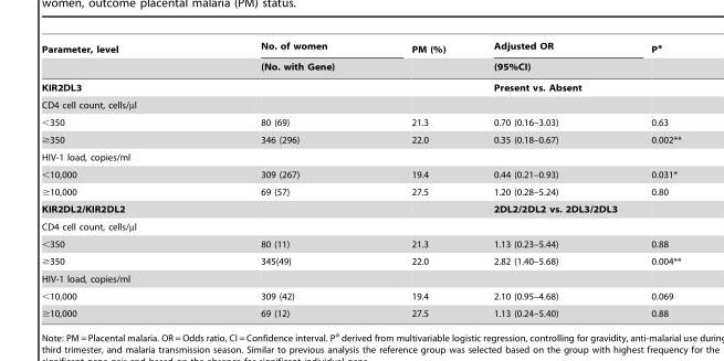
<table><thead><tr><td rowspan="2">Parameter, level</td><td rowspan="2">No. of women (No. with Gene)</td><td rowspan="2">PM (%)</td><td rowspan="2">Adjusted OR (95%CI)</td><td rowspan="2">P<sup>a</sup></td></tr><tr></tr></thead><tbody><tr><td>KIR2DL3</td><td></td><td></td><td>Present vs. Absent</td><td></td></tr><tr><td colspan="5">CD4 cell count, cells/µl</td></tr><tr><td>&lt;350</td><td>80 (69)</td><td>21.3</td><td>0.70 (0.16–3.03)</td><td>0.63</td></tr><tr><td>≥350</td><td>346 (296)</td><td>22.0</td><td>0.35 (0.18–0.67)</td><td>0.002**</td></tr><tr><td colspan="5">HIV-1 load, copies/ml</td></tr><tr><td>&lt;10,000</td><td>309 (267)</td><td>19.4</td><td>0.44 (0.21–0.93)</td><td>0.031*</td></tr><tr><td>≥10,000</td><td>69 (57)</td><td>27.5</td><td>1.20 (0.28–5.24)</td><td>0.80</td></tr><tr><td>KIR2DL2/KIR2DL2</td><td></td><td></td><td>2DL2/2DL2 vs. 2DL3/2DL3</td><td></td></tr><tr><td colspan="5">CD4 cell count, cells/µl</td></tr><tr><td>&lt;350</td><td>80 (11)</td><td>21.3</td><td>1.13 (0.23–5.44)</td><td>0.88</td></tr><tr><td>≥350</td><td>345(49)</td><td>22.0</td><td>2.82 (1.40–5.68)</td><td>0.004**</td></tr><tr><td colspan="5">HIV-1 load, copies/ml</td></tr><tr><td>&lt;10,000</td><td>309 (42)</td><td>19.4</td><td>2.10 (0.95–4.68)</td><td>0.069</td></tr><tr><td>≥10,000</td><td>69 (12)</td><td>27.5</td><td>1.13 (0.24–5.40)</td><td>0.88</td></tr></tbody></table>